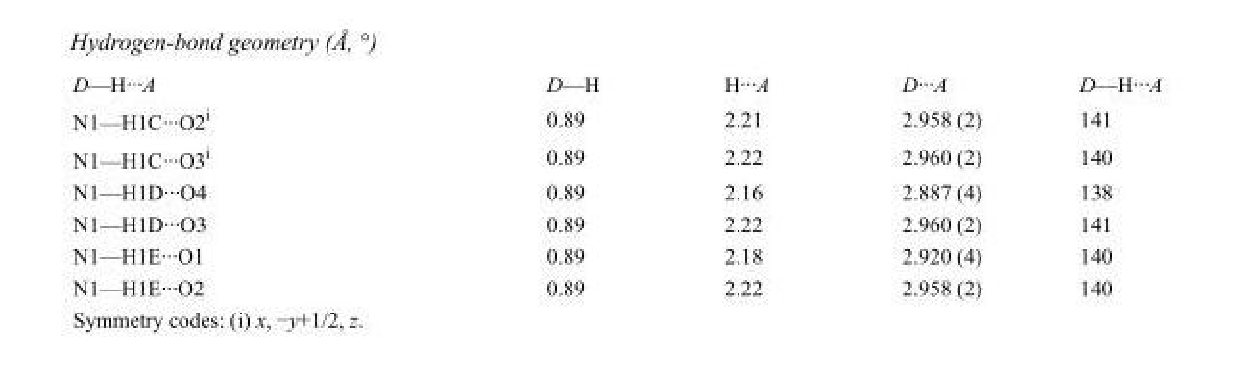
<table><tbody><tr><td>D—H···A</td><td>D—H</td><td>H···A</td><td>D···A</td><td>D—H···A</td></tr><tr><td>N1—H1C···O2<sup>i</sup></td><td>0.89</td><td>2.21</td><td>2.958 (2)</td><td>141</td></tr><tr><td>N1—H1C···O3<sup>i</sup></td><td>0.89</td><td>2.22</td><td>2.960 (2)</td><td>140</td></tr><tr><td>N1—H1D···O4</td><td>0.89</td><td>2.16</td><td>2.887 (4)</td><td>138</td></tr><tr><td>N1—H1D···O3</td><td>0.89</td><td>2.22</td><td>2.960 (2)</td><td>141</td></tr><tr><td>N1—H1E···O1</td><td>0.89</td><td>2.18</td><td>2.920 (4)</td><td>140</td></tr><tr><td>N1—H1E···O2</td><td>0.89</td><td>2.22</td><td>2.958 (2)</td><td>140</td></tr></tbody></table>